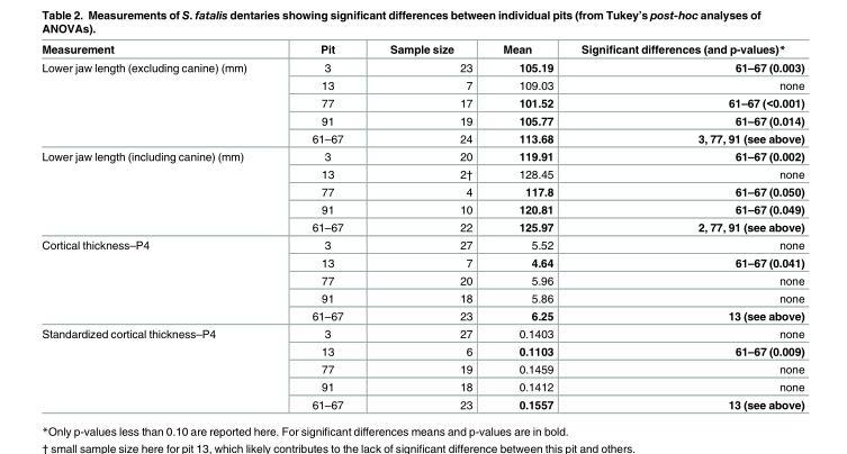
<table><thead><tr><td>Measurement</td><td>Pit</td><td>Sample size</td><td>Mean</td><td>Significant differences (and p-values)*</td></tr></thead><tbody><tr><td rowspan="5">Lower jaw length (excluding canine) (mm)</td><td>3</td><td>23</td><td>105.19</td><td>61–67 (0.003)</td></tr><tr><td>13</td><td>7</td><td>109.03</td><td>none</td></tr><tr><td>77</td><td>17</td><td>101.52</td><td>61–67 (&lt;0.001)</td></tr><tr><td>91</td><td>19</td><td>105.77</td><td>61–67 (0.014)</td></tr><tr><td>61–67</td><td>24</td><td>113.68</td><td>3, 77, 91 (see above)</td></tr><tr><td rowspan="5">Lower jaw length (including canine) (mm)</td><td>3</td><td>20</td><td>119.91</td><td>61–67 (0.002)</td></tr><tr><td>13</td><td>2†</td><td>128.45</td><td>none</td></tr><tr><td>77</td><td>4</td><td>117.8</td><td>61–67 (0.050)</td></tr><tr><td>91</td><td>10</td><td>120.81</td><td>61–67 (0.049)</td></tr><tr><td>61–67</td><td>22</td><td>125.97</td><td>2, 77, 91 (see above)</td></tr><tr><td rowspan="5">Cortical thickness–P4</td><td>3</td><td>27</td><td>5.52</td><td>none</td></tr><tr><td>13</td><td>7</td><td>4.64</td><td>61–67 (0.041)</td></tr><tr><td>77</td><td>20</td><td>5.96</td><td>none</td></tr><tr><td>91</td><td>18</td><td>5.86</td><td>none</td></tr><tr><td>61–67</td><td>23</td><td>6.25</td><td>13 (see above)</td></tr><tr><td rowspan="5">Standardized cortical thickness–P4</td><td>3</td><td>27</td><td>0.1403</td><td>none</td></tr><tr><td>13</td><td>6</td><td>0.1103</td><td>61–67 (0.009)</td></tr><tr><td>77</td><td>19</td><td>0.1459</td><td>none</td></tr><tr><td>91</td><td>18</td><td>0.1412</td><td>none</td></tr><tr><td>61–67</td><td>23</td><td>0.1557</td><td>13 (see above)</td></tr></tbody></table>